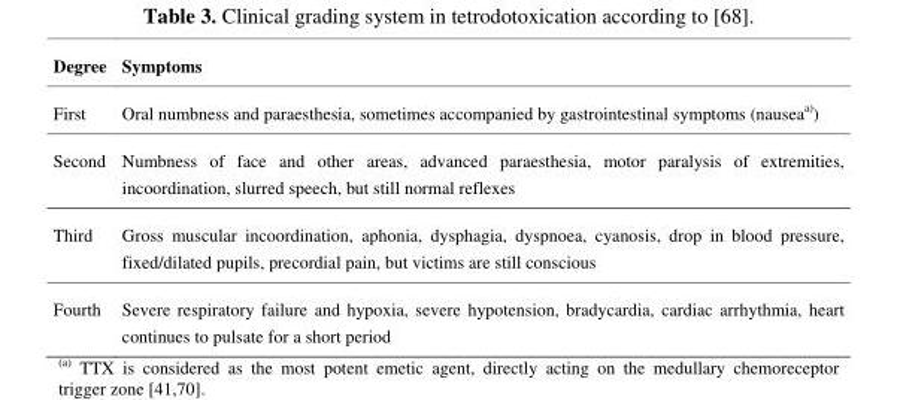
<table><thead><tr><td>Degree</td><td>Symptoms</td></tr></thead><tbody><tr><td>First</td><td>Oral numbness and paraesthesia, sometimes accompanied by gastrointestinal symptoms (nauseaa))</td></tr><tr><td>Second</td><td>Numbness of face and other areas, advanced paraesthesia, motor paralysis of extremities, incoordination, slurred speech, but still normal reflexes</td></tr><tr><td>Third</td><td>Gross muscular incoordination, aphonia, dysphagia, dyspnoea, cyanosis, drop in blood pressure, fixed/dilated pupils, precordial pain, but victims are still conscious</td></tr><tr><td>Fourth</td><td>Severe respiratory failure and hypoxia, severe hypotension, bradycardia, cardiac arrhythmia, heart continues to pulsate for a short period</td></tr></tbody></table>